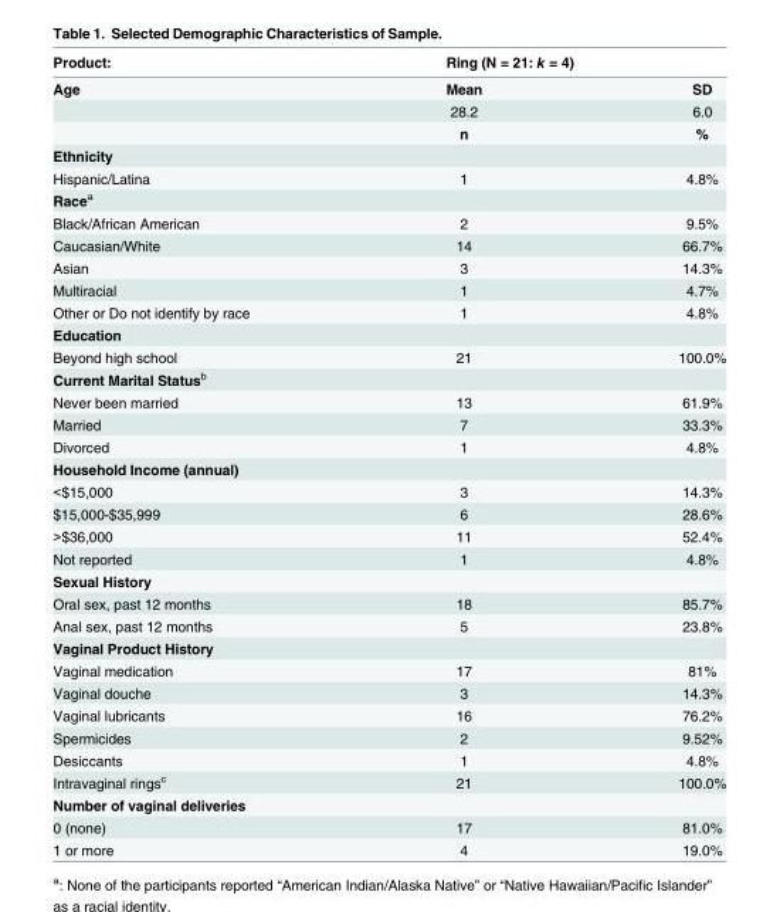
<table><thead><tr><td rowspan="2">Product: Age</td><td colspan="2">Ring (N = 21: k = 4)</td></tr><tr><td>Mean</td><td>SD</td></tr></thead><tbody><tr><td></td><td>28.2</td><td>6.0</td></tr><tr><td></td><td>n</td><td>%</td></tr><tr><td colspan="3">Ethnicity</td></tr><tr><td>Hispanic/Latina</td><td>1</td><td>4.8%</td></tr><tr><td colspan="3">Race<sup>a</sup></td></tr><tr><td>Black/African American</td><td>2</td><td>9.5%</td></tr><tr><td>Caucasian/White</td><td>14</td><td>66.7%</td></tr><tr><td>Asian</td><td>3</td><td>14.3%</td></tr><tr><td>Multiracial</td><td>1</td><td>4.7%</td></tr><tr><td>Other or Do not identify by race</td><td>1</td><td>4.8%</td></tr><tr><td colspan="3">Education</td></tr><tr><td>Beyond high school</td><td>21</td><td>100.0%</td></tr><tr><td colspan="3">Current Marital Status<sup>b</sup></td></tr><tr><td>Never been married</td><td>13</td><td>61.9%</td></tr><tr><td>Married</td><td>7</td><td>33.3%</td></tr><tr><td>Divorced</td><td>1</td><td>4.8%</td></tr><tr><td colspan="3">Household Income (annual)</td></tr><tr><td>&lt;$15,000</td><td>3</td><td>14.3%</td></tr><tr><td>$15,000-$35,999</td><td>6</td><td>28.6%</td></tr><tr><td>&gt;$36,000</td><td>11</td><td>52.4%</td></tr><tr><td>Not reported</td><td>1</td><td>4.8%</td></tr><tr><td colspan="3">Sexual History</td></tr><tr><td>Oral sex, past 12 months</td><td>18</td><td>85.7%</td></tr><tr><td>Anal sex, past 12 months</td><td>5</td><td>23.8%</td></tr><tr><td colspan="3">Vaginal Product History</td></tr><tr><td>Vaginal medication</td><td>17</td><td>81%</td></tr><tr><td>Vaginal douche</td><td>3</td><td>14.3%</td></tr><tr><td>Vaginal lubricants</td><td>16</td><td>76.2%</td></tr><tr><td>Spermicides</td><td>2</td><td>9.52%</td></tr><tr><td>Desiccants</td><td>1</td><td>4.8%</td></tr><tr><td>Intravaginal rings<sup>c</sup></td><td>21</td><td>100.0%</td></tr><tr><td colspan="3">Number of vaginal deliveries</td></tr><tr><td>0 (none)</td><td>17</td><td>81.0%</td></tr><tr><td>1 or more</td><td>4</td><td>19.0%</td></tr></tbody></table>